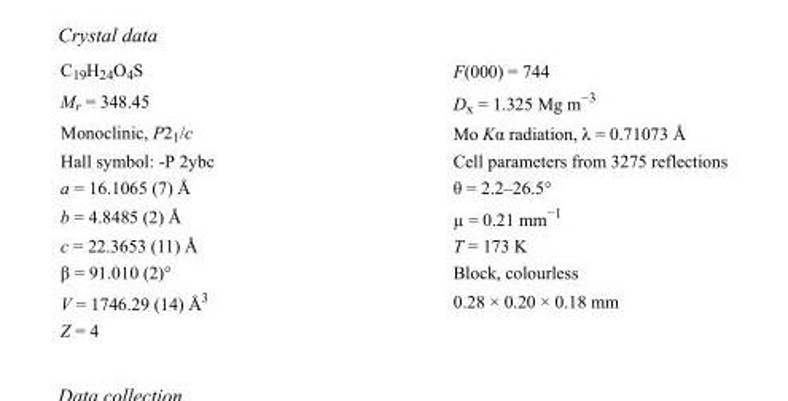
<table><tbody><tr><td>C<sub>19</sub>H<sub>24</sub>O<sub>4</sub>S</td><td>F(000) = 744</td></tr><tr><td>M<sub>r</sub> = 348.45</td><td>D<sub>x</sub> = 1.325 Mg m<sup>−3</sup></td></tr><tr><td>Monoclinic, P2<sub>1</sub>/c</td><td>Mo Kα radiation, λ = 0.71073 Å</td></tr><tr><td>Hall symbol: -P 2ybc</td><td>Cell parameters from 3275 reflections</td></tr><tr><td>a = 16.1065 (7) Å</td><td>θ = 2.2–26.5°</td></tr><tr><td>b = 4.8485 (2) Å</td><td>µ = 0.21 mm<sup>−1</sup></td></tr><tr><td>c = 22.3653 (11) Å</td><td>T = 173 K</td></tr><tr><td>β = 91.010 (2)°</td><td>Block, colourless</td></tr><tr><td>V = 1746.29 (14) Å<sup>3</sup></td><td>0.28 × 0.20 × 0.18 mm</td></tr><tr><td>Z = 4</td><td></td></tr></tbody></table>